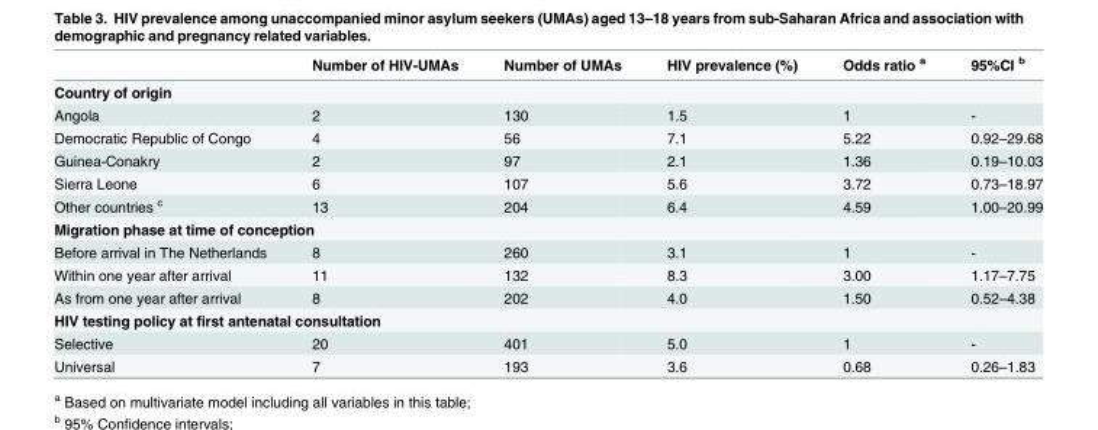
<table><thead><tr><td></td><td>Number of HIV-UMAs</td><td>Number of UMAs</td><td>HIV prevalence (%)</td><td>Odds ratio <sup>a</sup></td><td>95%CI <sup>b</sup></td></tr></thead><tbody><tr><td colspan="6">Country of origin</td></tr><tr><td>Angola</td><td>2</td><td>130</td><td>1.5</td><td>1</td><td>-</td></tr><tr><td>Democratic Republic of Congo</td><td>4</td><td>56</td><td>7.1</td><td>5.22</td><td>0.92–29.68</td></tr><tr><td>Guinea-Conakry</td><td>2</td><td>97</td><td>2.1</td><td>1.36</td><td>0.19–10.03</td></tr><tr><td>Sierra Leone</td><td>6</td><td>107</td><td>5.6</td><td>3.72</td><td>0.73–18.97</td></tr><tr><td>Other countries <sup>c</sup></td><td>13</td><td>204</td><td>6.4</td><td>4.59</td><td>1.00–20.99</td></tr><tr><td colspan="6">Migration phase at time of conception</td></tr><tr><td>Before arrival in The Netherlands</td><td>8</td><td>260</td><td>3.1</td><td>1</td><td>-</td></tr><tr><td>Within one year after arrival</td><td>11</td><td>132</td><td>8.3</td><td>3.00</td><td>1.17–7.75</td></tr><tr><td>As from one year after arrival</td><td>8</td><td>202</td><td>4.0</td><td>1.50</td><td>0.52–4.38</td></tr><tr><td colspan="6">HIV testing policy at first antenatal consultation</td></tr><tr><td>Selective</td><td>20</td><td>401</td><td>5.0</td><td>1</td><td>-</td></tr><tr><td>Universal</td><td>7</td><td>193</td><td>3.6</td><td>0.68</td><td>0.26–1.83</td></tr></tbody></table>